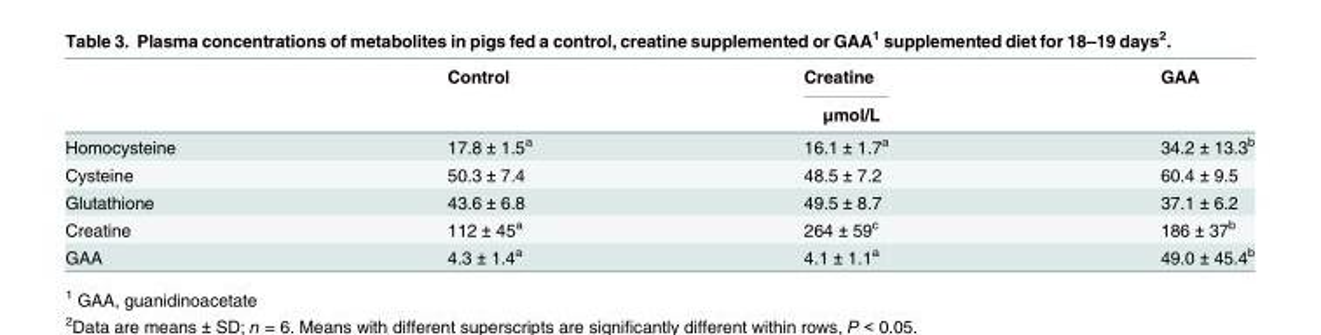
<table><thead><tr><td rowspan="2"></td><td>Control</td><td>Creatine</td><td>GAA</td></tr><tr><td colspan="3">μmol/L</td></tr></thead><tbody><tr><td>Homocysteine</td><td>17.8 ± 1.5<sup>a</sup></td><td>16.1 ± 1.7<sup>a</sup></td><td>34.2 ± 13.3<sup>b</sup></td></tr><tr><td>Cysteine</td><td>50.3 ± 7.4</td><td>48.5 ± 7.2</td><td>60.4 ± 9.5</td></tr><tr><td>Glutathione</td><td>43.6 ± 6.8</td><td>49.5 ± 8.7</td><td>37.1 ± 6.2</td></tr><tr><td>Creatine</td><td>112 ± 45<sup>a</sup></td><td>264 ± 59<sup>c</sup></td><td>186 ± 37<sup>b</sup></td></tr><tr><td>GAA</td><td>4.3 ± 1.4<sup>a</sup></td><td>4.1 ± 1.1<sup>a</sup></td><td>49.0 ± 45.4<sup>b</sup></td></tr></tbody></table>